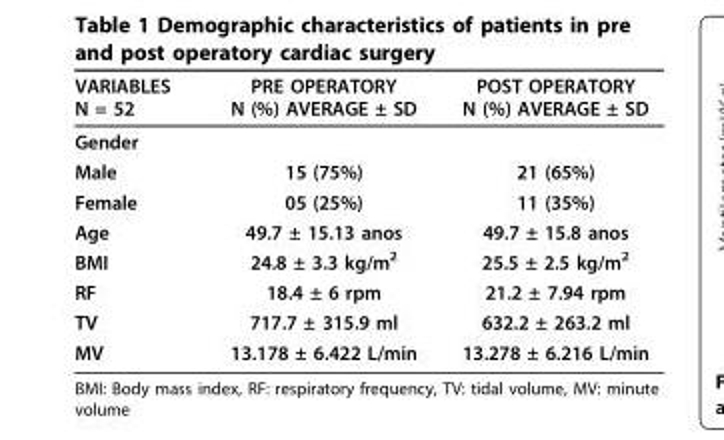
<table><thead><tr><td>VARIABLES N = 52</td><td>PRE OPERATORY N (%) AVERAGE ± SD</td><td>POST OPERATORY N (%) AVERAGE ± SD</td></tr></thead><tbody><tr><td colspan="3">Gender</td></tr><tr><td>Male</td><td>15 (75%)</td><td>21 (65%)</td></tr><tr><td>Female</td><td>05 (25%)</td><td>11 (35%)</td></tr><tr><td>Age</td><td>49.7 ± 15.13 anos</td><td>49.7 ± 15.8 anos</td></tr><tr><td>BMI</td><td>24.8 ± 3.3 kg/m<sup>2</sup></td><td>25.5 ± 2.5 kg/m<sup>2</sup></td></tr><tr><td>RF</td><td>18.4 ± 6 rpm</td><td>21.2 ± 7.94 rpm</td></tr><tr><td>TV</td><td>717.7 ± 315.9 ml</td><td>632.2 ± 263.2 ml</td></tr><tr><td>MV</td><td>13.178 ± 6.422 L/min</td><td>13.278 ± 6.216 L/min</td></tr></tbody></table>